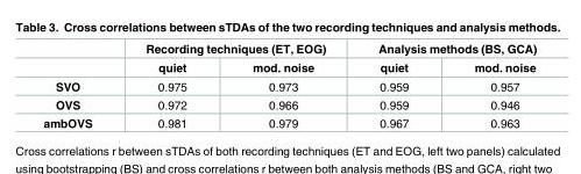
<table><thead><tr><td rowspan="2"></td><td colspan="2">Recording techniques (ET, EOG)</td><td colspan="2">Analysis methods (BS, GCA)</td></tr><tr><td>quiet</td><td>mod. noise</td><td>quiet</td><td>mod. noise</td></tr></thead><tbody><tr><td>SVO</td><td>0.975</td><td>0.973</td><td>0.959</td><td>0.957</td></tr><tr><td>OVS</td><td>0.972</td><td>0.966</td><td>0.959</td><td>0.946</td></tr><tr><td>ambOVS</td><td>0.981</td><td>0.979</td><td>0.967</td><td>0.963</td></tr></tbody></table>